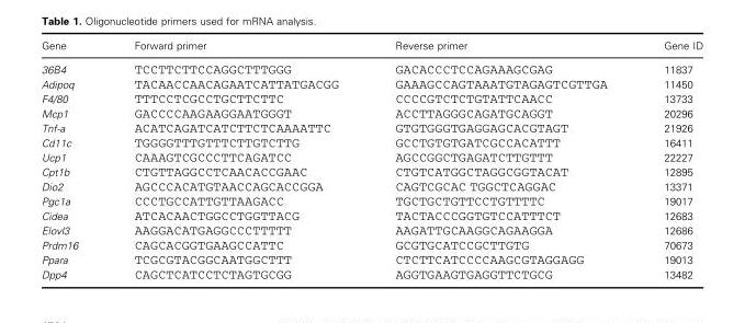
<table><thead><tr><td>Gene</td><td>Forward primer</td><td>Reverse primer</td><td>Gene ID</td></tr></thead><tbody><tr><td>36B4</td><td>TCCTTCTTCCAGGCTTTGGG</td><td>GACACCCTCCAGAAAGCGAG</td><td>11837</td></tr><tr><td>Adipoq</td><td>TACAACCAACAGAATCATTATGACGG</td><td>GAAAGCCAGTAAATGTAGAGTCGTTGA</td><td>11450</td></tr><tr><td>F4/80</td><td>TTTCCTCGCCTGCTTCTTC</td><td>CCCCGTCTCTGTATTCAACC</td><td>13733</td></tr><tr><td>Mcp1</td><td>GACCCCAAGAAGGAATGGGT</td><td>ACCTTAGGGCAGATGCAGGT</td><td>20296</td></tr><tr><td>Tnf-a</td><td>ACATCAGATCATCTTCTCAAAATTC</td><td>GTGTGGGTGAGGAGCACGTAGT</td><td>21926</td></tr><tr><td>Cd11c</td><td>TGGGGTTTGTTTCTTGTCTTG</td><td>GCCTGTGTGATCGCCACATTT</td><td>16411</td></tr><tr><td>Ucp1</td><td>CAAAGTCGCCCTTCAGATCC</td><td>AGCCGGCTGAGATCTTGTTT</td><td>22227</td></tr><tr><td>Cpt1b</td><td>CTGTTAGGCCTCAACACCGAAC</td><td>CTGTCATGGCTAGGCGGTACAT</td><td>12895</td></tr><tr><td>Dio2</td><td>AGCCCACATGTAACCAGCACCGGA</td><td>CAGTCGCAC TGGCTCAGGAC</td><td>13371</td></tr><tr><td>Pgc1a</td><td>CCCTGCCATTGTTAAGACC</td><td>TGCTGCTGTTCCTGTTTTC</td><td>19017</td></tr><tr><td>Cidea</td><td>ATCACAACTGGCCTGGTTACG</td><td>TACTACCCGGTGTCCATTTCT</td><td>12683</td></tr><tr><td>Elovl3</td><td>AAGGACATGAGGCCCTTTTT</td><td>AAGATTGCAAGGCAGAAGGA</td><td>12686</td></tr><tr><td>Prdm16</td><td>CAGCACGGTGAAGCCATTC</td><td>GCGTGCATCCGCTTGTG</td><td>70673</td></tr><tr><td>Ppara</td><td>TCGCGTACGGCAATGGCTTT</td><td>CTCTTCATCCCCAAGCGTAGGAGG</td><td>19013</td></tr><tr><td>Dpp4</td><td>CAGCTCATCCTCTAGTGCGG</td><td>AGGTGAAGTGAGGTTCTGCG</td><td>13482</td></tr></tbody></table>